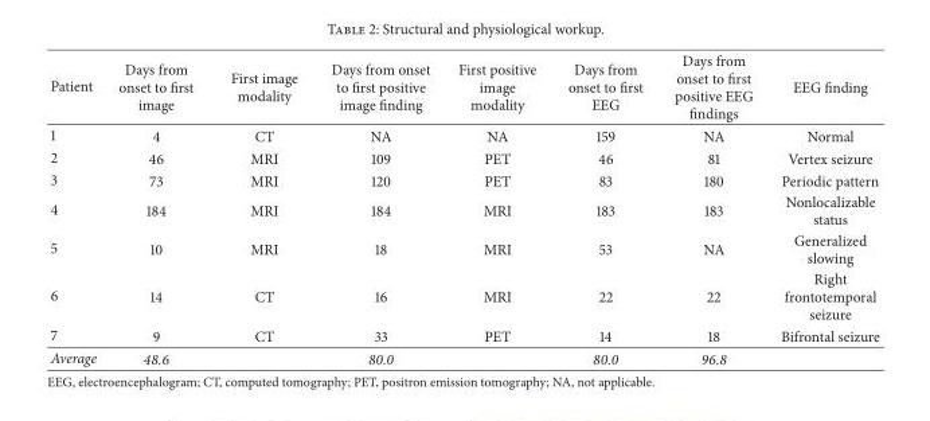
<table><thead><tr><td>Patient</td><td>Days from onset to first image</td><td>First image modality</td><td>Days from onset to first positive image finding</td><td>First positive image modality</td><td>Days from onset to first EEG</td><td>Days from onset to first positive EEG findings</td><td>EEG finding</td></tr></thead><tbody><tr><td>1</td><td>4</td><td>CT</td><td>NA</td><td>NA</td><td>159</td><td>NA</td><td>Normal</td></tr><tr><td>2</td><td>46</td><td>MRI</td><td>109</td><td>PET</td><td>46</td><td>81</td><td>Vertex seizure</td></tr><tr><td>3</td><td>73</td><td>MRI</td><td>120</td><td>PET</td><td>83</td><td>180</td><td>Periodic pattern</td></tr><tr><td>4</td><td>184</td><td>MRI</td><td>184</td><td>MRI</td><td>183</td><td>183</td><td>Nonlocalizable status</td></tr><tr><td>5</td><td>10</td><td>MRI</td><td>18</td><td>MRI</td><td>53</td><td>NA</td><td>Generalized slowing</td></tr><tr><td>6</td><td>14</td><td>CT</td><td>16</td><td>MRI</td><td>22</td><td>22</td><td>Right frontotemporal seizure</td></tr><tr><td>7</td><td>9</td><td>CT</td><td>33</td><td>PET</td><td>14</td><td>18</td><td>Bifrontal seizure</td></tr><tr><td>Average</td><td>48.6</td><td></td><td>80.0</td><td></td><td>80.0</td><td>96.8</td><td></td></tr></tbody></table>